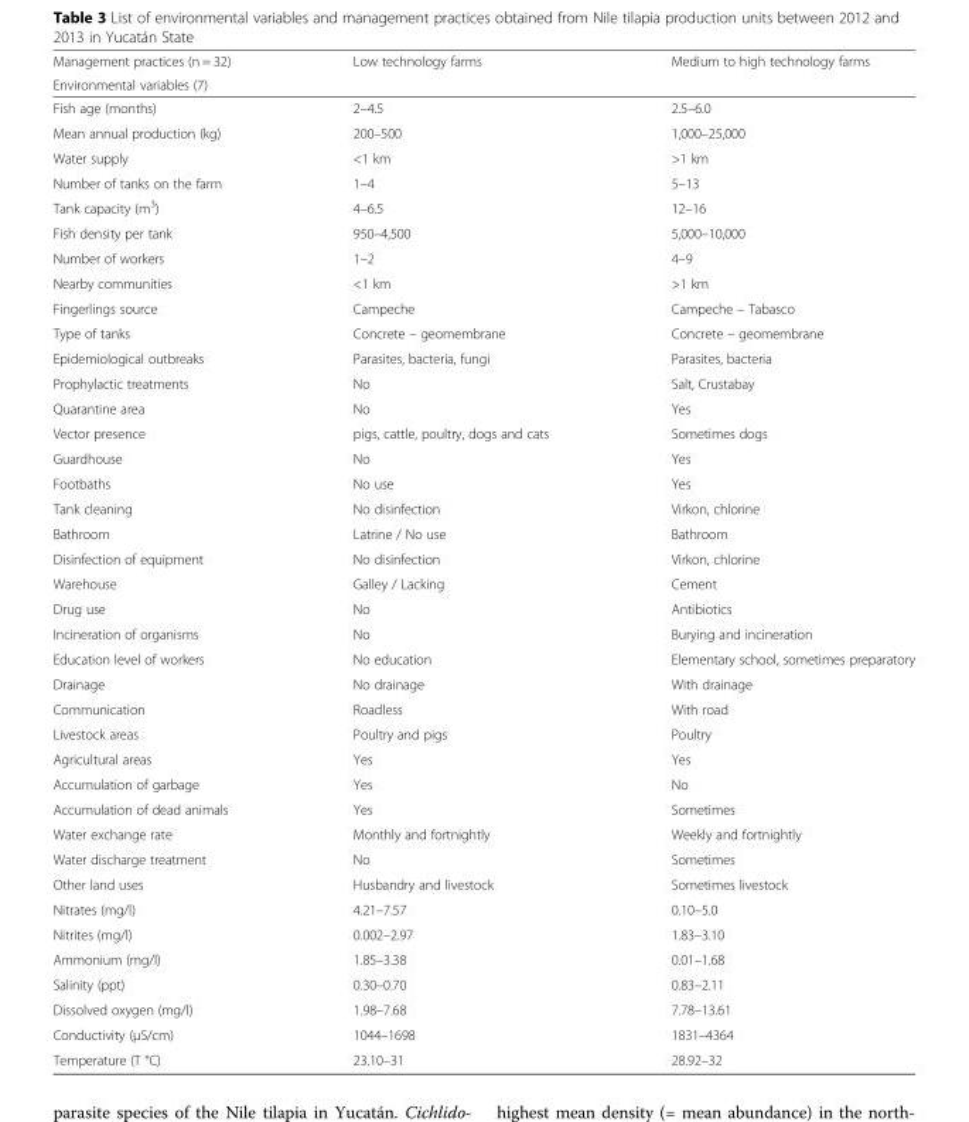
<table><thead><tr><td rowspan="2">Management practices (n = 32) Environmental variables (7)</td><td rowspan="2">Low technology farms</td><td rowspan="2">Medium to high technology farms</td></tr><tr></tr></thead><tbody><tr><td>Fish age (months)</td><td>2–4.5</td><td>2.5–6.0</td></tr><tr><td>Mean annual production (kg)</td><td>200–500</td><td>1,000–25,000</td></tr><tr><td>Water supply</td><td>&lt;1 km</td><td>&gt;1 km</td></tr><tr><td>Number of tanks on the farm</td><td>1–4</td><td>5–13</td></tr><tr><td>Tank capacity (m<sup>3</sup>)</td><td>4–6.5</td><td>12–16</td></tr><tr><td>Fish density per tank</td><td>950–4,500</td><td>5,000–10,000</td></tr><tr><td>Number of workers</td><td>1–2</td><td>4–9</td></tr><tr><td>Nearby communities</td><td>&lt;1 km</td><td>&gt;1 km</td></tr><tr><td>Fingerlings source</td><td>Campeche</td><td>Campeche – Tabasco</td></tr><tr><td>Type of tanks</td><td>Concrete – geomembrane</td><td>Concrete – geomembrane</td></tr><tr><td>Epidemiological outbreaks</td><td>Parasites, bacteria, fungi</td><td>Parasites, bacteria</td></tr><tr><td>Prophylactic treatments</td><td>No</td><td>Salt, Crustabay</td></tr><tr><td>Quarantine area</td><td>No</td><td>Yes</td></tr><tr><td>Vector presence</td><td>pigs, cattle, poultry, dogs and cats</td><td>Sometimes dogs</td></tr><tr><td>Guardhouse</td><td>No</td><td>Yes</td></tr><tr><td>Footbaths</td><td>No use</td><td>Yes</td></tr><tr><td>Tank cleaning</td><td>No disinfection</td><td>Virkon, chlorine</td></tr><tr><td>Bathroom</td><td>Latrine / No use</td><td>Bathroom</td></tr><tr><td>Disinfection of equipment</td><td>No disinfection</td><td>Virkon, chlorine</td></tr><tr><td>Warehouse</td><td>Galley / Lacking</td><td>Cement</td></tr><tr><td>Drug use</td><td>No</td><td>Antibiotics</td></tr><tr><td>Incineration of organisms</td><td>No</td><td>Burying and incineration</td></tr><tr><td>Education level of workers</td><td>No education</td><td>Elementary school, sometimes preparatory</td></tr><tr><td>Drainage</td><td>No drainage</td><td>With drainage</td></tr><tr><td>Communication</td><td>Roadless</td><td>With road</td></tr><tr><td>Livestock areas</td><td>Poultry and pigs</td><td>Poultry</td></tr><tr><td>Agricultural areas</td><td>Yes</td><td>Yes</td></tr><tr><td>Accumulation of garbage</td><td>Yes</td><td>No</td></tr><tr><td>Accumulation of dead animals</td><td>Yes</td><td>Sometimes</td></tr><tr><td>Water exchange rate</td><td>Monthly and fortnightly</td><td>Weekly and fortnightly</td></tr><tr><td>Water discharge treatment</td><td>No</td><td>Sometimes</td></tr><tr><td>Other land uses</td><td>Husbandry and livestock</td><td>Sometimes livestock</td></tr><tr><td>Nitrates (mg/l)</td><td>4.21–7.57</td><td>0.10–5.0</td></tr><tr><td>Nitrites (mg/l)</td><td>0.002–2.97</td><td>1.83–3.10</td></tr><tr><td>Ammonium (mg/l)</td><td>1.85–3.38</td><td>0.01–1.68</td></tr><tr><td>Salinity (ppt)</td><td>0.30–0.70</td><td>0.83–2.11</td></tr><tr><td>Dissolved oxygen (mg/l)</td><td>1.98–7.68</td><td>7.78–13.61</td></tr><tr><td>Conductivity (μS/cm)</td><td>1044–1698</td><td>1831–4364</td></tr><tr><td>Temperature (T °C)</td><td>23.10–31</td><td>28.92–32</td></tr></tbody></table>